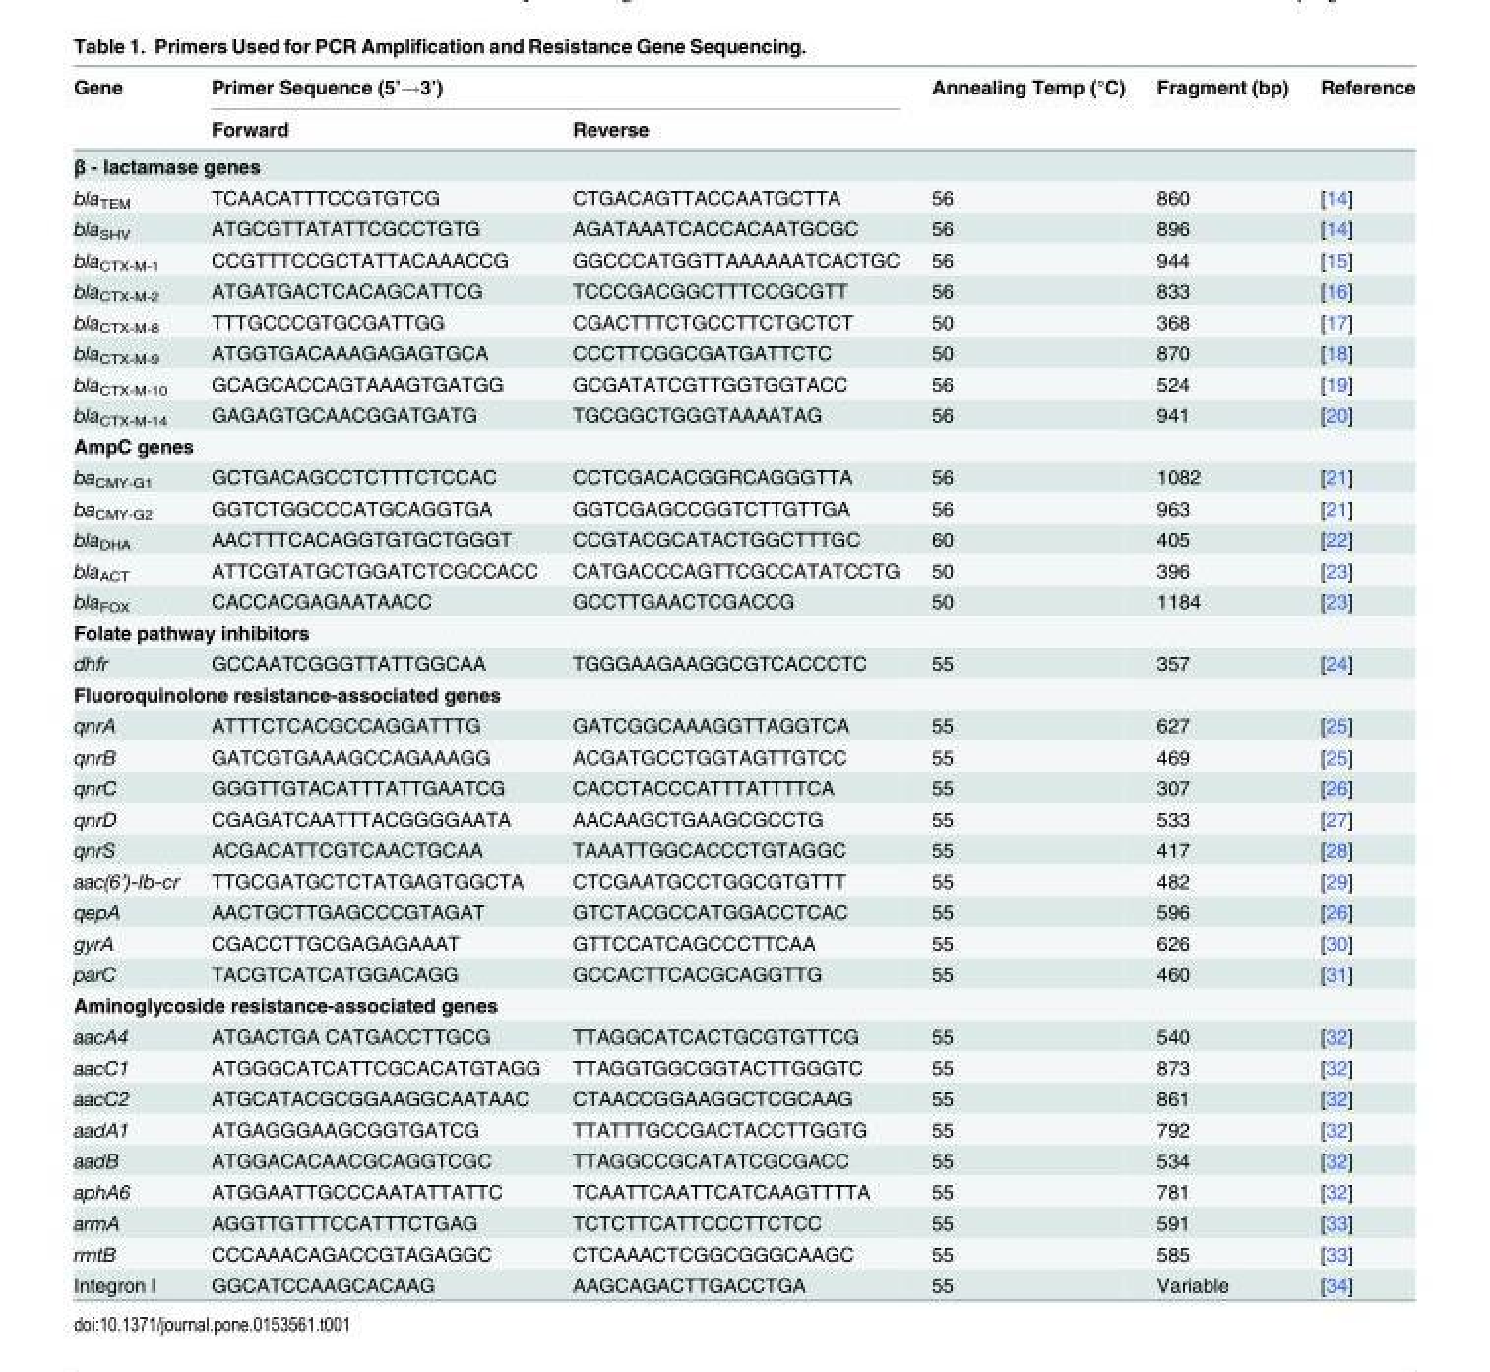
<table><thead><tr><td rowspan="2">Gene</td><td colspan="2">Primer Sequence (5’→3’)</td><td rowspan="2">Annealing Temp (°C)</td><td rowspan="2">Fragment (bp)</td><td rowspan="2">Reference</td></tr><tr><td>Forward</td><td>Reverse</td></tr></thead><tbody><tr><td colspan="6">β - lactamase genes</td></tr><tr><td>bla<sub>TEM</sub></td><td>TCAACATTTCCGTGTCG</td><td>CTGACAGTTACCAATGCTTA</td><td>56</td><td>860</td><td>[14]</td></tr><tr><td>bla<sub>SHV</sub></td><td>ATGCGTTATATTCGCCTGTG</td><td>AGATAAATCACCACAATGCGC</td><td>56</td><td>896</td><td>[14]</td></tr><tr><td>bla<sub>CTX-M-1</sub></td><td>CCGTTTCCGCTATTACAAACCG</td><td>GGCCCATGGTTAAAAAATCACTGC</td><td>56</td><td>944</td><td>[15]</td></tr><tr><td>bla<sub>CTX-M-2</sub></td><td>ATGATGACTCACAGCATTCG</td><td>TCCCGACGGCTTTCCGCGTT</td><td>56</td><td>833</td><td>[16]</td></tr><tr><td>bla<sub>CTX-M-8</sub></td><td>TTTGCCCGTGCGATTGG</td><td>CGACTTTCTGCCTTCTGCTCT</td><td>50</td><td>368</td><td>[17]</td></tr><tr><td>bla<sub>CTX-M-9</sub></td><td>ATGGTGACAAAGAGAGTGCA</td><td>CCCTTCGGCGATGATTCTC</td><td>50</td><td>870</td><td>[18]</td></tr><tr><td>bla<sub>CTX-M-10</sub></td><td>GCAGCACCAGTAAAGTGATGG</td><td>GCGATATCGTTGGTGGTACC</td><td>56</td><td>524</td><td>[19]</td></tr><tr><td>bla<sub>CTX-M-14</sub></td><td>GAGAGTGCAACGGATGATG</td><td>TGCGGCTGGGTAAAATAG</td><td>56</td><td>941</td><td>[20]</td></tr><tr><td colspan="6">AmpC genes</td></tr><tr><td>ba<sub>CMY-G1</sub></td><td>GCTGACAGCCTCTTTCTCCAC</td><td>CCTCGACACGGRCAGGGTTA</td><td>56</td><td>1082</td><td>[21]</td></tr><tr><td>ba<sub>CMY-G2</sub></td><td>GGTCTGGCCCATGCAGGTGA</td><td>GGTCGAGCCGGTCTTGTTGA</td><td>56</td><td>963</td><td>[21]</td></tr><tr><td>bla<sub>DHA</sub></td><td>AACTTTCACAGGTGTGCTGGGT</td><td>CCGTACGCATACTGGCTTTGC</td><td>60</td><td>405</td><td>[22]</td></tr><tr><td>bla<sub>ACT</sub></td><td>ATTCGTATGCTGGATCTCGCCACC</td><td>CATGACCCAGTTCGCCATATCCTG</td><td>50</td><td>396</td><td>[23]</td></tr><tr><td>bla<sub>FOX</sub></td><td>CACCACGAGAATAACC</td><td>GCCTTGAACTCGACCG</td><td>50</td><td>1184</td><td>[23]</td></tr><tr><td colspan="6">Folate pathway inhibitors</td></tr><tr><td>dhfr</td><td>GCCAATCGGGTTATTGGCAA</td><td>TGGGAAGAAGGCGTCACCCTC</td><td>55</td><td>357</td><td>[24]</td></tr><tr><td colspan="6">Fluoroquinolone resistance-associated genes</td></tr><tr><td>qnrA</td><td>ATTTCTCACGCCAGGATTTG</td><td>GATCGGCAAAGGTTAGGTCA</td><td>55</td><td>627</td><td>[25]</td></tr><tr><td>qnrB</td><td>GATCGTGAAAGCCAGAAAGG</td><td>ACGATGCCTGGTAGTTGTCC</td><td>55</td><td>469</td><td>[25]</td></tr><tr><td>qnrC</td><td>GGGTTGTACATTTATTGAATCG</td><td>CACCTACCCATTTATTTTCA</td><td>55</td><td>307</td><td>[26]</td></tr><tr><td>qnrD</td><td>CGAGATCAATTTACGGGGAATA</td><td>AACAAGCTGAAGCGCCTG</td><td>55</td><td>533</td><td>[27]</td></tr><tr><td>qnrS</td><td>ACGACATTCGTCAACTGCAA</td><td>TAAATTGGCACCCTGTAGGC</td><td>55</td><td>417</td><td>[28]</td></tr><tr><td>aac(6’)-Ib-cr</td><td>TTGCGATGCTCTATGAGTGGCTA</td><td>CTCGAATGCCTGGCGTGTTT</td><td>55</td><td>482</td><td>[29]</td></tr><tr><td>qepA</td><td>AACTGCTTGAGCCCGTAGAT</td><td>GTCTACGCCATGGACCTCAC</td><td>55</td><td>596</td><td>[26]</td></tr><tr><td>gyrA</td><td>CGACCTTGCGAGAGAAAT</td><td>GTTCCATCAGCCCTTCAA</td><td>55</td><td>626</td><td>[30]</td></tr><tr><td>parC</td><td>TACGTCATCATGGACAGG</td><td>GCCACTTCACGCAGGTTG</td><td>55</td><td>460</td><td>[31]</td></tr><tr><td colspan="6">Aminoglycoside resistance-associated genes</td></tr><tr><td>aacA4</td><td>ATGACTGA CATGACCTTGCG</td><td>TTAGGCATCACTGCGTGTTCG</td><td>55</td><td>540</td><td>[32]</td></tr><tr><td>aacC1</td><td>ATGGGCATCATTCGCACATGTAGG</td><td>TTAGGTGGCGGTACTTGGGTC</td><td>55</td><td>873</td><td>[32]</td></tr><tr><td>aacC2</td><td>ATGCATACGCGGAAGGCAATAAC</td><td>CTAACCGGAAGGCTCGCAAG</td><td>55</td><td>861</td><td>[32]</td></tr><tr><td>aadA1</td><td>ATGAGGGAAGCGGTGATCG</td><td>TTATTTGCCGACTACCTTGGTG</td><td>55</td><td>792</td><td>[32]</td></tr><tr><td>aadB</td><td>ATGGACACAACGCAGGTCGC</td><td>TTAGGCCGCATATCGCGACC</td><td>55</td><td>534</td><td>[32]</td></tr><tr><td>aphA6</td><td>ATGGAATTGCCCAATATTATTC</td><td>TCAATTCAATTCATCAAGTTTTA</td><td>55</td><td>781</td><td>[32]</td></tr><tr><td>armA</td><td>AGGTTGTTTCCATTTCTGAG</td><td>TCTCTTCATTCCCTTCTCC</td><td>55</td><td>591</td><td>[33]</td></tr><tr><td>rmtB</td><td>CCCAAACAGACCGTAGAGGC</td><td>CTCAAACTCGGCGGGCAAGC</td><td>55</td><td>585</td><td>[33]</td></tr><tr><td>Integron I</td><td>GGCATCCAAGCACAAG</td><td>AAGCAGACTTGACCTGA</td><td>55</td><td>Variable</td><td>[34]</td></tr></tbody></table>